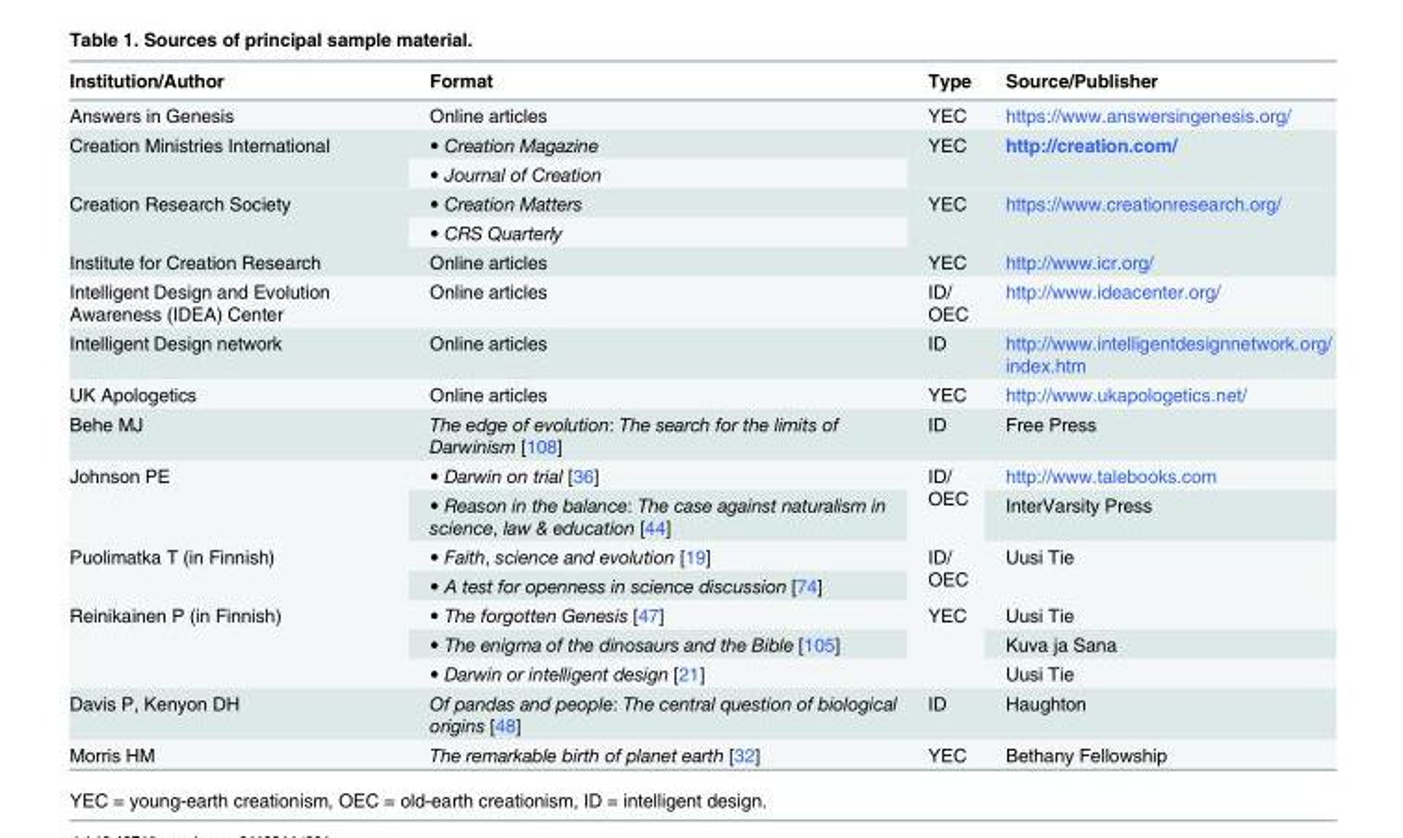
<table><thead><tr><td>Institution/Author</td><td>Format</td><td>Type</td><td>Source/Publisher</td></tr></thead><tbody><tr><td>Answers in Genesis</td><td>Online articles</td><td>YEC</td><td>https://www.answersingenesis.org/</td></tr><tr><td rowspan="2">Creation Ministries International</td><td>• Creation Magazine</td><td rowspan="2">YEC</td><td rowspan="2">http://creation.com/</td></tr><tr><td>• Journal of Creation</td></tr><tr><td rowspan="2">Creation Research Society</td><td>• Creation Matters</td><td rowspan="2">YEC</td><td rowspan="2">https://www.creationresearch.org/</td></tr><tr><td>• CRS Quarterly</td></tr><tr><td>Institute for Creation Research</td><td>Online articles</td><td>YEC</td><td>http://www.icr.org/</td></tr><tr><td>Intelligent Design and Evolution Awareness (IDEA) Center</td><td>Online articles</td><td>ID/ OEC</td><td>http://www.ideacenter.org/</td></tr><tr><td>Intelligent Design network</td><td>Online articles</td><td>ID</td><td>http://www.intelligentdesignnetwork.org/ index.htm</td></tr><tr><td>UK Apologetics</td><td>Online articles</td><td>YEC</td><td>http://www.ukapologetics.net/</td></tr><tr><td>Behe MJ</td><td>The edge of evolution: The search for the limits of Darwinism [108]</td><td>ID</td><td>Free Press</td></tr><tr><td rowspan="2">Johnson PE</td><td>• Darwin on trial [36]</td><td rowspan="2">ID/ OEC</td><td>http://www.talebooks.com</td></tr><tr><td>• Reason in the balance: The case against naturalism in science, law &amp; education [44]</td><td>InterVarsity Press</td></tr><tr><td rowspan="2">Puolimatka T (in Finnish)</td><td>• Faith, science and evolution [19]</td><td rowspan="2">ID/ OEC</td><td rowspan="2">Uusi Tie</td></tr><tr><td>• A test for openness in science discussion [74]</td></tr><tr><td rowspan="3">Reinikainen P (in Finnish)</td><td>• The forgotten Genesis [47]</td><td rowspan="3">YEC</td><td>Uusi Tie</td></tr><tr><td>• The enigma of the dinosaurs and the Bible [105]</td><td>Kuva ja Sana</td></tr><tr><td>• Darwin or intelligent design [21]</td><td>Uusi Tie</td></tr><tr><td>Davis P, Kenyon DH</td><td>Of pandas and people: The central question of biological origins [48]</td><td>ID</td><td>Haughton</td></tr><tr><td>Morris HM</td><td>The remarkable birth of planet earth [32]</td><td>YEC</td><td>Bethany Fellowship</td></tr></tbody></table>